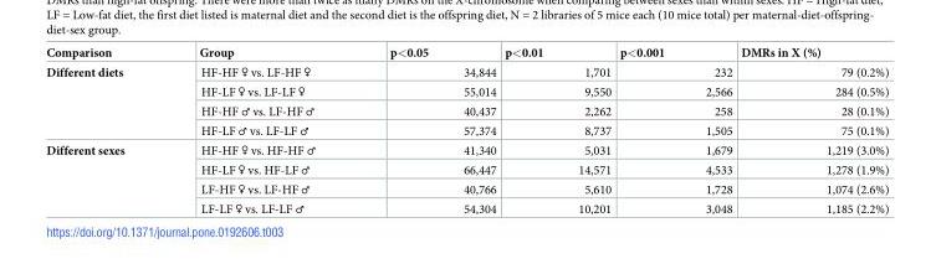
<table><thead><tr><td>Comparison</td><td>Group</td><td>p&lt;0.05</td><td>p&lt;0.01</td><td>p&lt;0.001</td><td>DMRs in X (%)</td></tr></thead><tbody><tr><td rowspan="4">Different diets</td><td>HF-HF ♀ vs. LF-HF ♀</td><td>34,844</td><td>1,701</td><td>232</td><td>79 (0.2%)</td></tr><tr><td>HF-LF ♀ vs. LF-LF ♀</td><td>55,014</td><td>9,550</td><td>2,566</td><td>284 (0.5%)</td></tr><tr><td>HF-HF ♂ vs. LF-HF ♂</td><td>40,437</td><td>2,262</td><td>258</td><td>28 (0.1%)</td></tr><tr><td>HF-LF ♂ vs. LF-LF ♂</td><td>57,374</td><td>8,737</td><td>1,505</td><td>75 (0.1%)</td></tr><tr><td rowspan="4">Different sexes</td><td>HF-HF ♀ vs. HF-HF ♂</td><td>41,340</td><td>5,031</td><td>1,679</td><td>1,219 (3.0%)</td></tr><tr><td>HF-LF ♀ vs. HF-LF ♂</td><td>66,447</td><td>14,571</td><td>4,533</td><td>1,278 (1.9%)</td></tr><tr><td>LF-HF ♀ vs. LF-HF ♂</td><td>40,766</td><td>5,610</td><td>1,728</td><td>1,074 (2.6%)</td></tr><tr><td>LF-LF ♀ vs. LF-LF ♂</td><td>54,304</td><td>10,201</td><td>3,048</td><td>1,185 (2.2%)</td></tr></tbody></table>